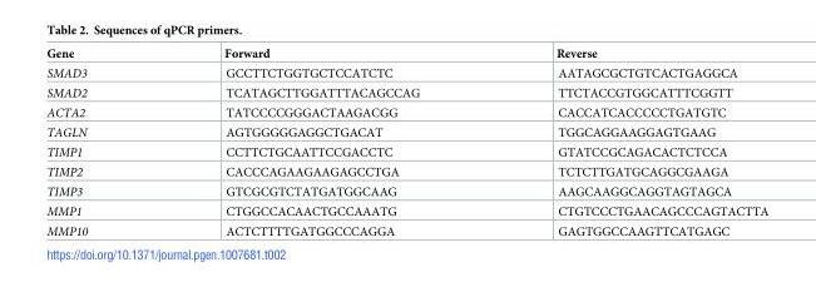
<table><thead><tr><td>Gene</td><td>Forward</td><td>Reverse</td></tr></thead><tbody><tr><td>SMAD3</td><td>GCCTTCTGGTGCTCCATCTC</td><td>AATAGCGCTGTCACTGAGGCA</td></tr><tr><td>SMAD2</td><td>TCATAGCTTGGATTTACAGCCAG</td><td>TTCTACCGTGGCATTTCGGTT</td></tr><tr><td>ACTA2</td><td>TATCCCCGGGACTAAGACGG</td><td>CACCATCACCCCCTGATGTC</td></tr><tr><td>TAGLN</td><td>AGTGGGGGAGGCTGACAT</td><td>TGGCAGGAAGGAGTGAAG</td></tr><tr><td>TIMP1</td><td>CCTTCTGCAATTCCGACCTC</td><td>GTATCCGCAGACACTCTCCA</td></tr><tr><td>TIMP2</td><td>CACCCAGAAGAAGAGCCTGA</td><td>TCTCTTGATGCAGGCGAAGA</td></tr><tr><td>TIMP3</td><td>GTCGCGTCTATGATGGCAAG</td><td>AAGCAAGGCAGGTAGTAGCA</td></tr><tr><td>MMP1</td><td>CTGGCCACAACTGCCAAATG</td><td>CTGTCCCTGAACAGCCCAGTACTTA</td></tr><tr><td>MMP10</td><td>ACTCTTTTGATGGCCCAGGA</td><td>GAGTGGCCAAGTTCATGAGC</td></tr></tbody></table>